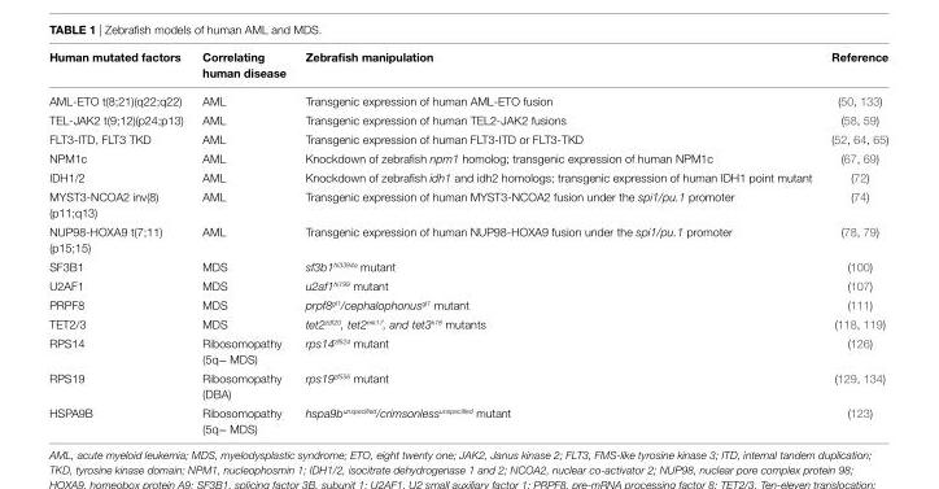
<table><thead><tr><td>Human mutated factors</td><td>Correlating human disease</td><td>Zebrafish manipulation</td><td>Reference</td></tr></thead><tbody><tr><td>AML-ETO t(8;21)(q22;q22)</td><td>AML</td><td>Transgenic expression of human AML-ETO fusion</td><td>(50, 133)</td></tr><tr><td>TEL-JAK2 t(9;12)(p24;p13)</td><td>AML</td><td>Transgenic expression of human TEL2-JAK2 fusions</td><td>(58, 59)</td></tr><tr><td>FLT3-ITD, FLT3 TKD</td><td>AML</td><td>Transgenic expression of human FLT3-ITD or FLT3-TKD</td><td>(52, 64, 65)</td></tr><tr><td>NPM1c</td><td>AML</td><td>Knockdown of zebrafish npm1 homolog; transgenic expression of human NPM1c</td><td>(67, 69)</td></tr><tr><td>IDH1/2</td><td>AML</td><td>Knockdown of zebrafish idh1 and idh2 homologs; transgenic expression of human IDH1 point mutant</td><td>(72)</td></tr><tr><td>MYST3-NCOA2 inv(8) (p11;q13)</td><td>AML</td><td>Transgenic expression of human MYST3-NCOA2 fusion under the spi1/pu.1 promoter</td><td>(74)</td></tr><tr><td>NUP98-HOXA9 t(7;11) (p15;15)</td><td>AML</td><td>Transgenic expression of human NUP98-HOXA9 fusion under the spi1/pu.1 promoter</td><td>(78, 79)</td></tr><tr><td>SF3B1</td><td>MDS</td><td>sf3b1<sup>hi3394a</sup> mutant</td><td>(100)</td></tr><tr><td>U2AF1</td><td>MDS</td><td>u2af1<sup>hi199</sup> mutant</td><td>(107)</td></tr><tr><td>PRPF8</td><td>MDS</td><td>prpf8<sup>gl1</sup>/cephalophonus<sup>gl1</sup> mutant</td><td>(111)</td></tr><tr><td>TET2/3</td><td>MDS</td><td>tet2<sup>zdf20</sup>, tet2<sup>mk17</sup>, and tet3<sup>k18</sup> mutants</td><td>(118, 119)</td></tr><tr><td>RPS14</td><td>Ribosomopathy (5q− MDS)</td><td>rps14<sup>zf624</sup> mutant</td><td>(126)</td></tr><tr><td>RPS19</td><td>Ribosomopathy (DBA)</td><td>rps19<sup>zf556</sup> mutant</td><td>(129, 134)</td></tr><tr><td>HSPA9B</td><td>Ribosomopathy (5q− MDS)</td><td>hspa9b<sup>unspecified</sup>/crimsonless<sup>unspecified</sup> mutant</td><td>(123)</td></tr></tbody></table>